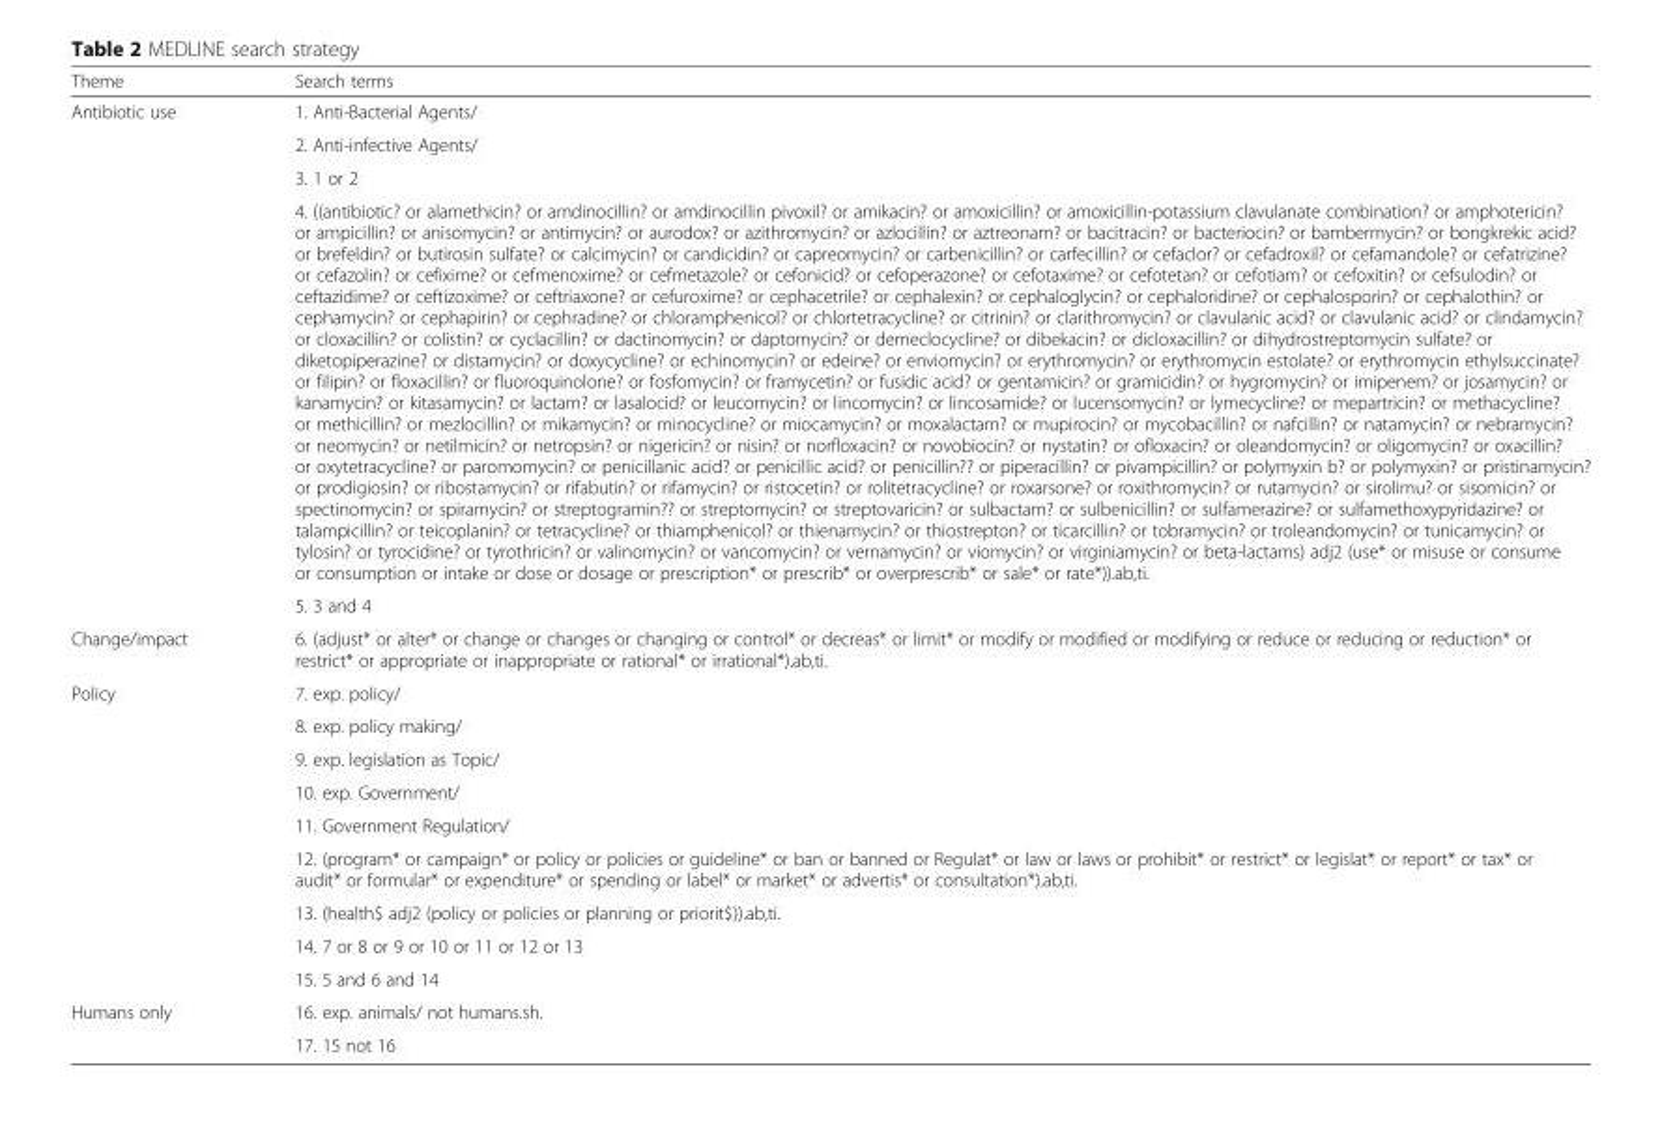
<table><thead><tr><td>Theme</td><td>Search terms</td></tr></thead><tbody><tr><td rowspan="5">Antibiotic use</td><td>1. Anti-Bacterial Agents/</td></tr><tr><td>2. Anti-infective Agents/</td></tr><tr><td>3. 1 or 2</td></tr><tr><td>4. ((antibiotic? or alamethicin? or amdinocillin? or amdinocillin pivoxil? or amikacin? or amoxicillin? or amoxicillin-potassium clavulanate combination? or amphotericin? or ampicillin? or anisomycin? or antimycin? or aurodox? or azithromycin? or azlocillin? or aztreonam? or bacitracin? or bacteriocin? or bambermycin? or bongkrekic acid? or brefeldin? or butirosin sulfate? or calcimycin? or candicidin? or capreomycin? or carbenicillin? or carfecillin? or cefaclor? or cefadroxil? or cefamandole? or cefatrizine? or cefazolin? or cefixime? or cefmenoxime? or cefmetazole? or cefonicid? or cefoperazone? or cefotaxime? or cefotetan? or cefotiam? or cefoxitin? or cefsulodin? or ceftazidime? or ceftizoxime? or ceftriaxone? or cefuroxime? or cephacetrile? or cephalexin? or cephaloglycin? or cephaloridine? or cephalosporin? or cephalothin? or cephamycin? or cephapirin? or cephradine? or chloramphenicol? or chlortetracycline? or citrinin? or clarithromycin? or clavulanic acid? or clavulanic acid? or clindamycin? or cloxacillin? or colistin? or cyclacillin? or dactinomycin? or daptomycin? or demeclocycline? or dibekacin? or dicloxacillin? or dihydrostreptomycin sulfate? or diketopiperazine? or distamycin? or doxycycline? or echinomycin? or edeine? or enviomycin? or erythromycin? or erythromycin estolate? or erythromycin ethylsuccinate? or filipin? or floxacillin? or fluoroquinolone? or fosfomycin? or framycetin? or fusidic acid? or gentamicin? or gramicidin? or hygromycin? or imipenem? or josamycin? or kanamycin? or kitasamycin? or lactam? or lasalocid? or leucomycin? or lincomycin? or lincosamide? or lucensomycin? or lymecycline? or mepartricin? or methacycline? or methicillin? or mezlocillin? or mikamycin? or minocycline? or miocamycin? or moxalactam? or mupirocin? or mycobacillin? or nafcillin? or natamycin? or nebramycin? or neomycin? or netilmicin? or netropsin? or nigericin? or nisin? or norfloxacin? or novobiocin? or nystatin? or ofloxacin? or oleandomycin? or oligomycin? or oxacillin? or oxytetracycline? or paromomycin? or penicillanic acid? or penicillic acid? or penicillin?? or piperacillin? or pivampicillin? or polymyxin b? or polymyxin? or pristinamycin? or prodigiosin? or ribostamycin? or rifabutin? or rifamycin? or ristocetin? or rolitetracycline? or roxarsone? or roxithromycin? or rutamycin? or sirolimu? or sisomicin? or spectinomycin? or spiramycin? or streptogramin?? or streptomycin? or streptovaricin? or sulbactam? or sulbenicillin? or sulfamerazine? or sulfamethoxypyridazine? or talampicillin? or teicoplanin? or tetracycline? or thiamphenicol? or thienamycin? or thiostrepton? or ticarcillin? or tobramycin? or troleandomycin? or tunicamycin? or tylosin? or tyrocidine? or tyrothricin? or valinomycin? or vancomycin? or vernamycin? or viomycin? or virginiamycin? or beta-lactams) adj2 (use* or misuse or consume or consumption or intake or dose or dosage or prescription* or prescrib* or overprescrib* or sale* or rate*)).ab,ti.</td></tr><tr><td>5. 3 and 4</td></tr><tr><td>Change/impact</td><td>6. (adjust* or alter* or change or changes or changing or control* or decreas* or limit* or modify or modified or modifying or reduce or reducing or reduction* or restrict* or appropriate or inappropriate or rational* or irrational*).ab,ti.</td></tr><tr><td rowspan="9">Policy</td><td>7. exp. policy/</td></tr><tr><td>8. exp. policy making/</td></tr><tr><td>9. exp. legislation as Topic/</td></tr><tr><td>10. exp. Government/</td></tr><tr><td>11. Government Regulation/</td></tr><tr><td>12. (program* or campaign* or policy or policies or guideline* or ban or banned or Regulat* or law or laws or prohibit* or restrict* or legislat* or report* or tax* or audit* or formular* or expenditure* or spending or label* or market* or advertis* or consultation*).ab,ti.</td></tr><tr><td>13. (health$ adj2 (policy or policies or planning or priorit$)).ab,ti.</td></tr><tr><td>14. 7 or 8 or 9 or 10 or 11 or 12 or 13</td></tr><tr><td>15. 5 and 6 and 14</td></tr><tr><td rowspan="2">Humans only</td><td>16. exp. animals/ not humans.sh.</td></tr><tr><td>17. 15 not 16</td></tr></tbody></table>